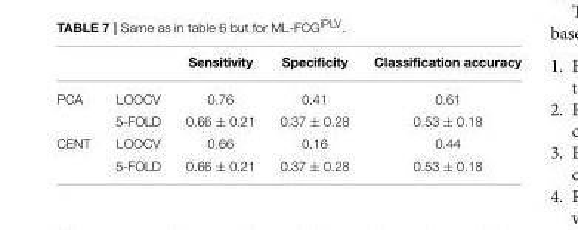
<table><thead><tr><td></td><td></td><td>Sensitivity</td><td>Specificity</td><td>Classification accuracy</td></tr></thead><tbody><tr><td rowspan="2">PCA</td><td>LOOCV</td><td>0.76</td><td>0.41</td><td>0.61</td></tr><tr><td>5-FOLD</td><td>0.66 ± 0.21</td><td>0.37 ± 0.28</td><td>0.53 ± 0.18</td></tr><tr><td rowspan="2">CENT</td><td>LOOCV</td><td>0.66</td><td>0.16</td><td>0.44</td></tr><tr><td>5-FOLD</td><td>0.66 ± 0.21</td><td>0.37 ± 0.28</td><td>0.53 ± 0.18</td></tr></tbody></table>